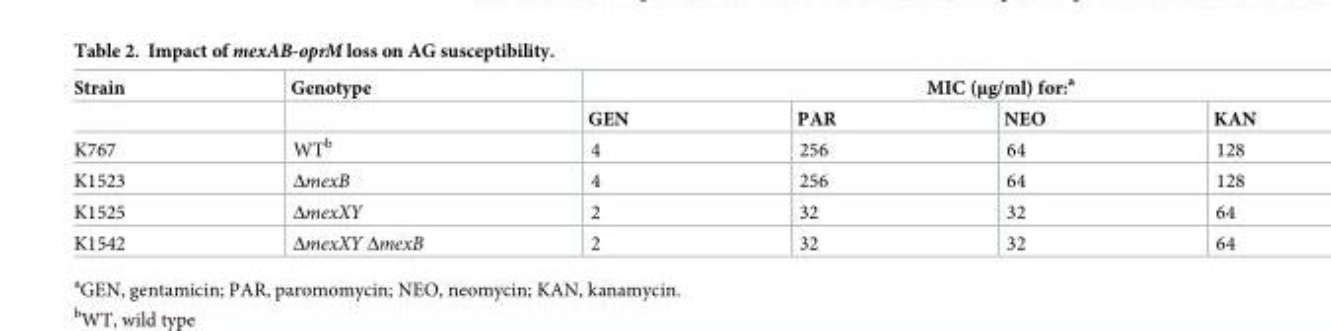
<table><thead><tr><td rowspan="2">Strain</td><td rowspan="2">Genotype</td><td colspan="4">MIC (μg/ml) for:<sup>a</sup></td></tr><tr><td>GEN</td><td>PAR</td><td>NEO</td><td>KAN</td></tr></thead><tbody><tr><td>K767</td><td>WT<sup>b</sup></td><td>4</td><td>256</td><td>64</td><td>128</td></tr><tr><td>K1523</td><td>ΔmexB</td><td>4</td><td>256</td><td>64</td><td>128</td></tr><tr><td>K1525</td><td>ΔmexXY</td><td>2</td><td>32</td><td>32</td><td>64</td></tr><tr><td>K1542</td><td>ΔmexXY ΔmexB</td><td>2</td><td>32</td><td>32</td><td>64</td></tr></tbody></table>